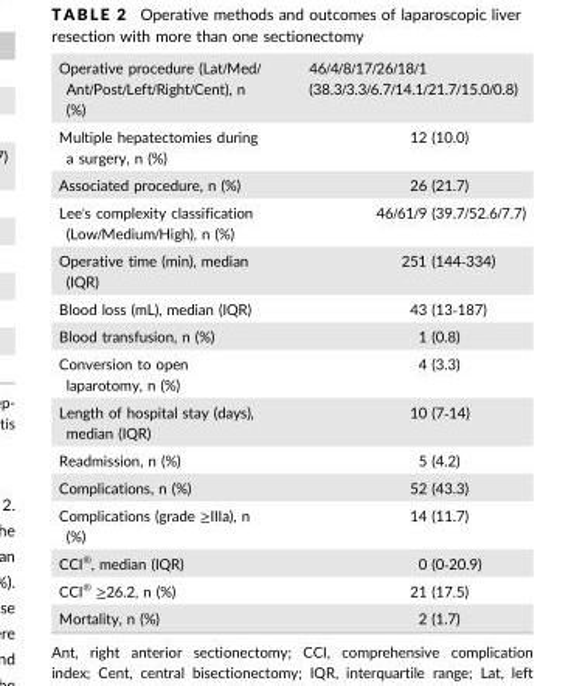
<table><tbody><tr><td>Operative procedure (Lat/Med/ Ant/Post/Left/Right/Cent), n (%)</td><td>46/4/8/17/26/18/1 (38.3/3.3/6.7/14.1/21.7/15.0/0.8)</td></tr><tr><td>Multiple hepatectomies during a surgery, n (%)</td><td>12 (10.0)</td></tr><tr><td>Associated procedure, n (%)</td><td>26 (21.7)</td></tr><tr><td>Lee&#x27;s complexity classification (Low/Medium/High), n (%)</td><td>46/61/9 (39.7/52.6/7.7)</td></tr><tr><td>Operative time (min), median (IQR)</td><td>251 (144‐334)</td></tr><tr><td>Blood loss (mL), median (IQR)</td><td>43 (13‐187)</td></tr><tr><td>Blood transfusion, n (%)</td><td>1 (0.8)</td></tr><tr><td>Conversion to open laparotomy, n (%)</td><td>4 (3.3)</td></tr><tr><td>Length of hospital stay (days), median (IQR)</td><td>10 (7‐14)</td></tr><tr><td>Readmission, n (%)</td><td>5 (4.2)</td></tr><tr><td>Complications, n (%)</td><td>52 (43.3)</td></tr><tr><td>Complications (grade ≥IIIa), n (%)</td><td>14 (11.7)</td></tr><tr><td>CCI<sup>®</sup>, median (IQR)</td><td>0 (0‐20.9)</td></tr><tr><td>CCI<sup>®</sup> ≥26.2, n (%)</td><td>21 (17.5)</td></tr><tr><td>Mortality, n (%)</td><td>2 (1.7)</td></tr></tbody></table>